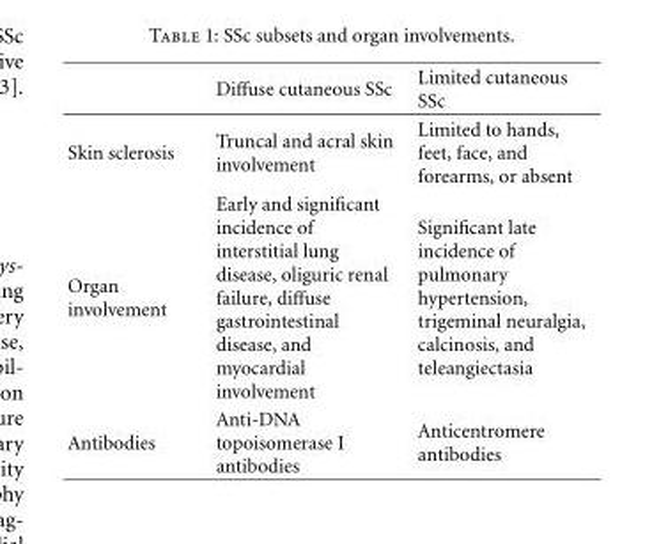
<table><thead><tr><td></td><td>Diffuse cutaneous SSc</td><td>Limited cutaneous SSc</td></tr></thead><tbody><tr><td>Skin sclerosis</td><td>Truncal and acral skin involvement</td><td>Limited to hands, feet, face, and forearms, or absent</td></tr><tr><td>Organ involvement</td><td>Early and significant incidence of interstitial lung disease, oliguric renal failure, diffuse gastrointestinal disease, and myocardial involvement</td><td>Significant late incidence of pulmonary hypertension, trigeminal neuralgia, calcinosis, and teleangiectasia</td></tr><tr><td>Antibodies</td><td>Anti-DNA topoisomerase I antibodies</td><td>Anticentromere antibodies</td></tr></tbody></table>